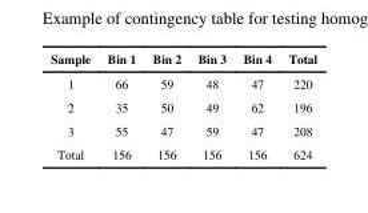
<table><thead><tr><td>Sample</td><td>Bin 1</td><td>Bin 2</td><td>Bin 3</td><td>Bin 4</td><td>Total</td></tr></thead><tbody><tr><td>1</td><td>66</td><td>59</td><td>48</td><td>47</td><td>220</td></tr><tr><td>2</td><td>35</td><td>50</td><td>49</td><td>62</td><td>196</td></tr><tr><td>3</td><td>55</td><td>47</td><td>59</td><td>47</td><td>208</td></tr><tr><td>Total</td><td>156</td><td>156</td><td>156</td><td>156</td><td>624</td></tr></tbody></table>